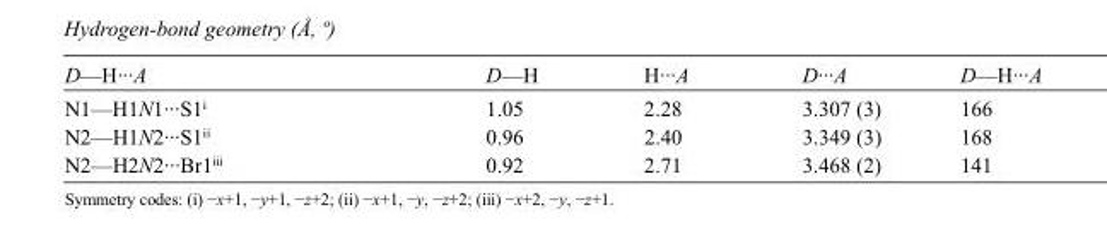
<table><tbody><tr><td>D—H···A</td><td>D—H</td><td>H···A</td><td>D···A</td><td>D—H···A</td></tr><tr><td>N1—H1N1···S1<sup>i</sup></td><td>1.05</td><td>2.28</td><td>3.307 (3)</td><td>166</td></tr><tr><td>N2—H1N2···S1<sup>ii</sup></td><td>0.96</td><td>2.40</td><td>3.349 (3)</td><td>168</td></tr><tr><td>N2—H2N2···Br1<sup>iii</sup></td><td>0.92</td><td>2.71</td><td>3.468 (2)</td><td>141</td></tr></tbody></table>